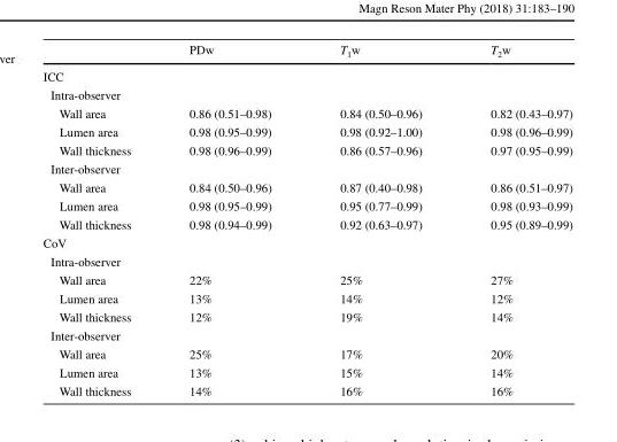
<table><thead><tr><td></td><td>PDw</td><td>T<sub>1</sub>w</td><td>T<sub>2</sub>w</td></tr></thead><tbody><tr><td colspan="4">ICC</td></tr><tr><td colspan="4">Intra-observer</td></tr><tr><td>Wall area</td><td>0.86 (0.51–0.98)</td><td>0.84 (0.50–0.96)</td><td>0.82 (0.43–0.97)</td></tr><tr><td>Lumen area</td><td>0.98 (0.95–0.99)</td><td>0.98 (0.92–1.00)</td><td>0.98 (0.96–0.99)</td></tr><tr><td>Wall thickness</td><td>0.98 (0.96–0.99)</td><td>0.86 (0.57–0.96)</td><td>0.97 (0.95–0.99)</td></tr><tr><td colspan="4">Inter-observer</td></tr><tr><td>Wall area</td><td>0.84 (0.50–0.96)</td><td>0.87 (0.40–0.98)</td><td>0.86 (0.51–0.97)</td></tr><tr><td>Lumen area</td><td>0.98 (0.95–0.99)</td><td>0.95 (0.77–0.99)</td><td>0.98 (0.93–0.99)</td></tr><tr><td>Wall thickness</td><td>0.98 (0.94–0.99)</td><td>0.92 (0.63–0.97)</td><td>0.95 (0.89–0.99)</td></tr><tr><td colspan="4">CoV</td></tr><tr><td colspan="4">Intra-observer</td></tr><tr><td>Wall area</td><td>22%</td><td>25%</td><td>27%</td></tr><tr><td>Lumen area</td><td>13%</td><td>14%</td><td>12%</td></tr><tr><td>Wall thickness</td><td>12%</td><td>19%</td><td>14%</td></tr><tr><td colspan="4">Inter-observer</td></tr><tr><td>Wall area</td><td>25%</td><td>17%</td><td>20%</td></tr><tr><td>Lumen area</td><td>13%</td><td>15%</td><td>14%</td></tr><tr><td>Wall thickness</td><td>14%</td><td>16%</td><td>16%</td></tr></tbody></table>